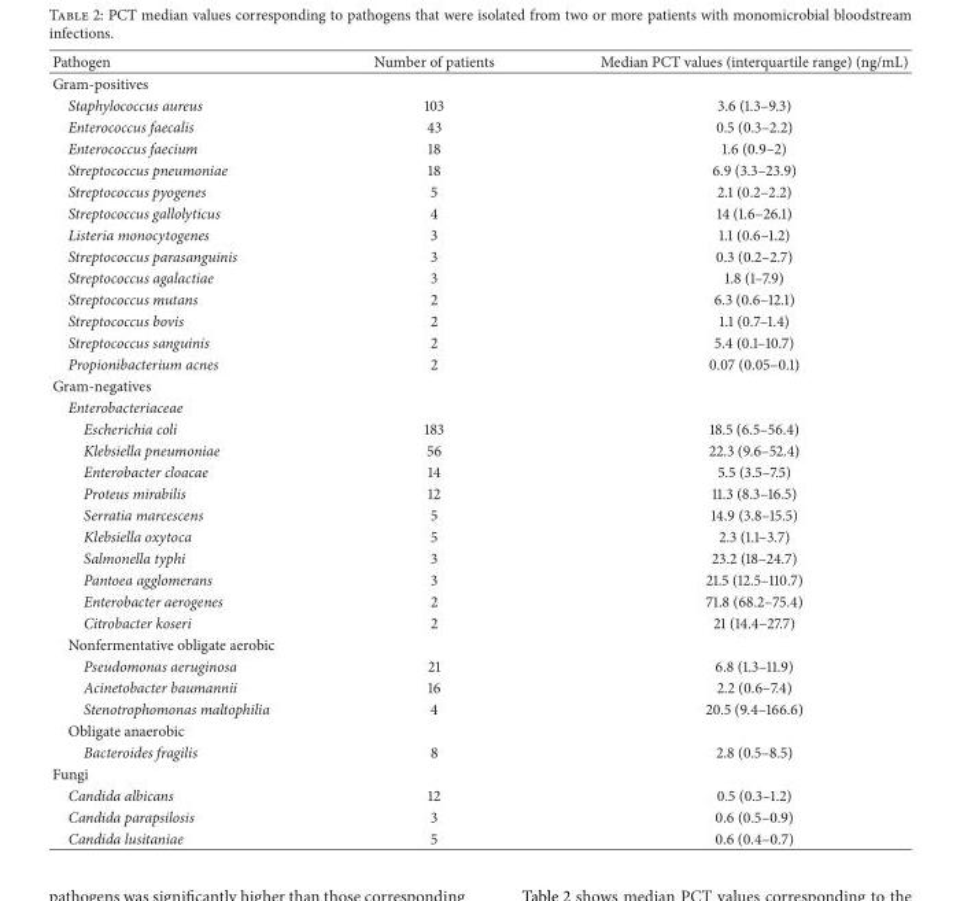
<table><thead><tr><td>Pathogen</td><td>Number of patients</td><td>Median PCT values (interquartile range) (ng/mL)</td></tr></thead><tbody><tr><td colspan="3">Gram-positives</td></tr><tr><td>Staphylococcus aureus</td><td>103</td><td>3.6 (1.3–9.3)</td></tr><tr><td>Enterococcus faecalis</td><td>43</td><td>0.5 (0.3–2.2)</td></tr><tr><td>Enterococcus faecium</td><td>18</td><td>1.6 (0.9–2)</td></tr><tr><td>Streptococcus pneumoniae</td><td>18</td><td>6.9 (3.3–23.9)</td></tr><tr><td>Streptococcus pyogenes</td><td>5</td><td>2.1 (0.2–2.2)</td></tr><tr><td>Streptococcus gallolyticus</td><td>4</td><td>14 (1.6–26.1)</td></tr><tr><td>Listeria monocytogenes</td><td>3</td><td>1.1 (0.6–1.2)</td></tr><tr><td>Streptococcus parasanguinis</td><td>3</td><td>0.3 (0.2–2.7)</td></tr><tr><td>Streptococcus agalactiae</td><td>3</td><td>1.8 (1–7.9)</td></tr><tr><td>Streptococcus mutans</td><td>2</td><td>6.3 (0.6–12.1)</td></tr><tr><td>Streptococcus bovis</td><td>2</td><td>1.1 (0.7–1.4)</td></tr><tr><td>Streptococcus sanguinis</td><td>2</td><td>5.4 (0.1–10.7)</td></tr><tr><td>Propionibacterium acnes</td><td>2</td><td>0.07 (0.05–0.1)</td></tr><tr><td colspan="3">Gram-negatives</td></tr><tr><td colspan="3">Enterobacteriaceae</td></tr><tr><td>Escherichia coli</td><td>183</td><td>18.5 (6.5–56.4)</td></tr><tr><td>Klebsiella pneumoniae</td><td>56</td><td>22.3 (9.6–52.4)</td></tr><tr><td>Enterobacter cloacae</td><td>14</td><td>5.5 (3.5–7.5)</td></tr><tr><td>Proteus mirabilis</td><td>12</td><td>11.3 (8.3–16.5)</td></tr><tr><td>Serratia marcescens</td><td>5</td><td>14.9 (3.8–15.5)</td></tr><tr><td>Klebsiella oxytoca</td><td>5</td><td>2.3 (1.1–3.7)</td></tr><tr><td>Salmonella typhi</td><td>3</td><td>23.2 (18–24.7)</td></tr><tr><td>Pantoea agglomerans</td><td>3</td><td>21.5 (12.5–110.7)</td></tr><tr><td>Enterobacter aerogenes</td><td>2</td><td>71.8 (68.2–75.4)</td></tr><tr><td>Citrobacter koseri</td><td>2</td><td>21 (14.4–27.7)</td></tr><tr><td colspan="3">Nonfermentative obligate aerobic</td></tr><tr><td>Pseudomonas aeruginosa</td><td>21</td><td>6.8 (1.3–11.9)</td></tr><tr><td>Acinetobacter baumannii</td><td>16</td><td>2.2 (0.6–7.4)</td></tr><tr><td>Stenotrophomonas maltophilia</td><td>4</td><td>20.5 (9.4–166.6)</td></tr><tr><td colspan="3">Obligate anaerobic</td></tr><tr><td>Bacteroides fragilis</td><td>8</td><td>2.8 (0.5–8.5)</td></tr><tr><td colspan="3">Fungi</td></tr><tr><td>Candida albicans</td><td>12</td><td>0.5 (0.3–1.2)</td></tr><tr><td>Candida parapsilosis</td><td>3</td><td>0.6 (0.5–0.9)</td></tr><tr><td>Candida lusitaniae</td><td>5</td><td>0.6 (0.4–0.7)</td></tr></tbody></table>